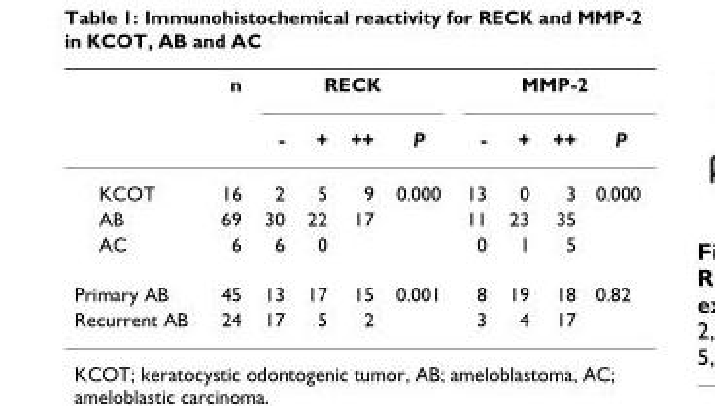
<table><thead><tr><td rowspan="2"></td><td rowspan="2">n</td><td colspan="4">RECK</td><td colspan="4">MMP-2</td></tr><tr><td>-</td><td>+</td><td>++</td><td>P</td><td>-</td><td>+</td><td>++</td><td>P</td></tr></thead><tbody><tr><td>KCOT</td><td>16</td><td>2</td><td>5</td><td>9</td><td>0.000</td><td>13</td><td>0</td><td>3</td><td>0.000</td></tr><tr><td>AB</td><td>69</td><td>30</td><td>22</td><td>17</td><td></td><td>11</td><td>23</td><td>35</td><td></td></tr><tr><td>AC</td><td>6</td><td>6</td><td>0</td><td></td><td></td><td>0</td><td>1</td><td>5</td><td></td></tr><tr><td>Primary AB</td><td>45</td><td>13</td><td>17</td><td>15</td><td>0.001</td><td>8</td><td>19</td><td>18</td><td>0.82</td></tr><tr><td>Recurrent AB</td><td>24</td><td>17</td><td>5</td><td>2</td><td></td><td>3</td><td>4</td><td>17</td><td></td></tr></tbody></table>